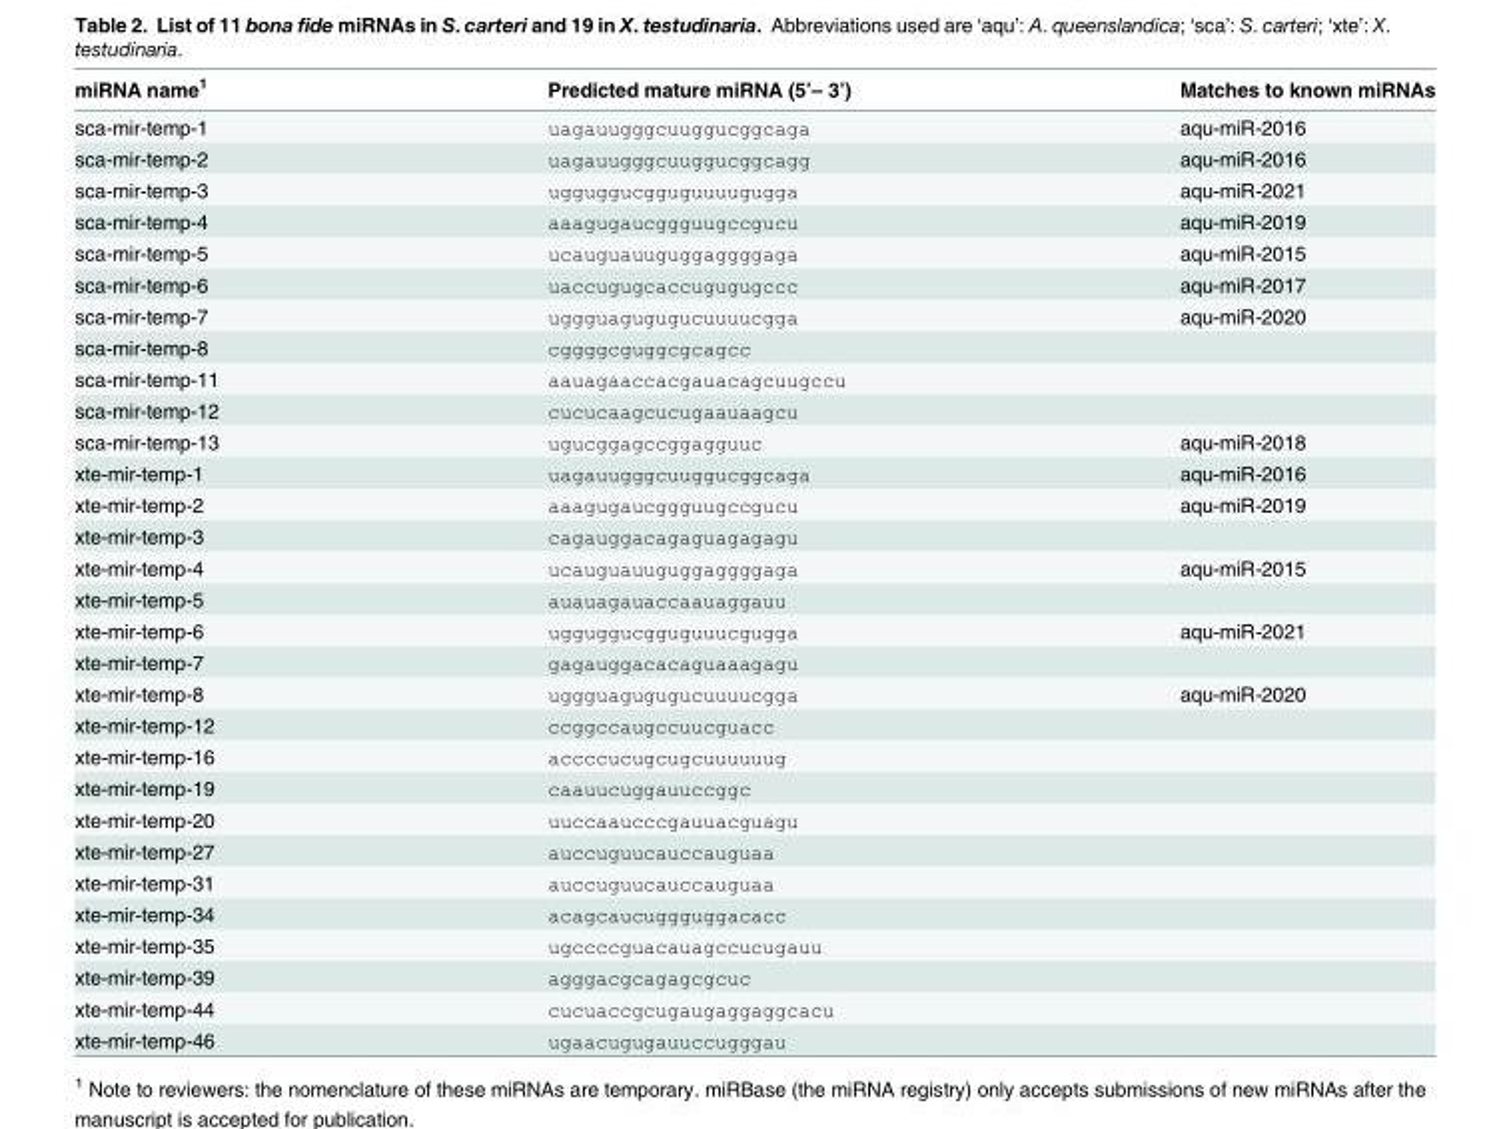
<table><thead><tr><td>miRNA name<sup>1</sup></td><td>Predicted mature miRNA (5’– 3’)</td><td>Matches to known miRNAs</td></tr></thead><tbody><tr><td>sca-mir-temp-1</td><td>uagauugggcuuggucggcaga</td><td>aqu-miR-2016</td></tr><tr><td>sca-mir-temp-2</td><td>uagauugggcuuggucggcagg</td><td>aqu-miR-2016</td></tr><tr><td>sca-mir-temp-3</td><td>ugguggucgguguuuugugga</td><td>aqu-miR-2021</td></tr><tr><td>sca-mir-temp-4</td><td>aaagugaucggguugccgucu</td><td>aqu-miR-2019</td></tr><tr><td>sca-mir-temp-5</td><td>ucauguauuguggaggggaga</td><td>aqu-miR-2015</td></tr><tr><td>sca-mir-temp-6</td><td>uaccugugcaccugugugccc</td><td>aqu-miR-2017</td></tr><tr><td>sca-mir-temp-7</td><td>uggguagugugucuuuucgga</td><td>aqu-miR-2020</td></tr><tr><td>sca-mir-temp-8</td><td>cggggcguggcgcagcc</td><td></td></tr><tr><td>sca-mir-temp-11</td><td>aauagaaccacgauacagcuugccu</td><td></td></tr><tr><td>sca-mir-temp-12</td><td>cucucaagcucugaauaagcu</td><td></td></tr><tr><td>sca-mir-temp-13</td><td>ugucggagccggagguuc</td><td>aqu-miR-2018</td></tr><tr><td>xte-mir-temp-1</td><td>uagauugggcuuggucggcaga</td><td>aqu-miR-2016</td></tr><tr><td>xte-mir-temp-2</td><td>aaagugaucggguugccgucu</td><td>aqu-miR-2019</td></tr><tr><td>xte-mir-temp-3</td><td>cagauggacagaguagagagu</td><td></td></tr><tr><td>xte-mir-temp-4</td><td>ucauguauuguggaggggaga</td><td>aqu-miR-2015</td></tr><tr><td>xte-mir-temp-5</td><td>auauagauaccaauaggauu</td><td></td></tr><tr><td>xte-mir-temp-6</td><td>ugguggucgguguuucgugga</td><td>aqu-miR-2021</td></tr><tr><td>xte-mir-temp-7</td><td>gagauggacacaguaaagagu</td><td></td></tr><tr><td>xte-mir-temp-8</td><td>uggguagugugucuuuucgga</td><td>aqu-miR-2020</td></tr><tr><td>xte-mir-temp-12</td><td>ccggccaugccuucguacc</td><td></td></tr><tr><td>xte-mir-temp-16</td><td>accccucugcugcuuuuuug</td><td></td></tr><tr><td>xte-mir-temp-19</td><td>caauucuggauuccggc</td><td></td></tr><tr><td>xte-mir-temp-20</td><td>uuccaaucccgauuacguagu</td><td></td></tr><tr><td>xte-mir-temp-27</td><td>auccuguucauccauguaa</td><td></td></tr><tr><td>xte-mir-temp-31</td><td>auccuguucauccauguaa</td><td></td></tr><tr><td>xte-mir-temp-34</td><td>acagcaucuggguggacacc</td><td></td></tr><tr><td>xte-mir-temp-35</td><td>ugccccguacauagccucugauu</td><td></td></tr><tr><td>xte-mir-temp-39</td><td>agggacgcagagcgcuc</td><td></td></tr><tr><td>xte-mir-temp-44</td><td>cucuaccgcugaugaggaggcacu</td><td></td></tr><tr><td>xte-mir-temp-46</td><td>ugaacugugauuccugggau</td><td></td></tr></tbody></table>